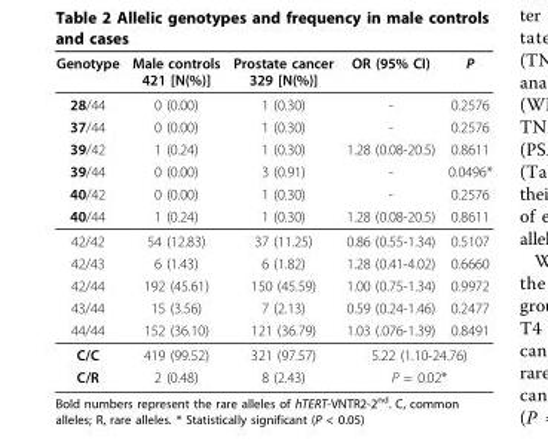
<table><thead><tr><td>Genotype</td><td>Male controls 421 [N(%)]</td><td>Prostate cancer 329 [N(%)]</td><td>OR (95% CI)</td><td>P</td></tr></thead><tbody><tr><td>28/44</td><td>0 (0.00)</td><td>1 (0.30)</td><td>-</td><td>0.2576</td></tr><tr><td>37/44</td><td>0 (0.00)</td><td>1 (0.30)</td><td>-</td><td>0.2576</td></tr><tr><td>39/42</td><td>1 (0.24)</td><td>1 (0.30)</td><td>1.28 (0.08-20.5)</td><td>0.8611</td></tr><tr><td>39/44</td><td>0 (0.00)</td><td>3 (0.91)</td><td>-</td><td>0.0496*</td></tr><tr><td>40/42</td><td>0 (0.00)</td><td>1 (0.30)</td><td>-</td><td>0.2576</td></tr><tr><td>40/44</td><td>1 (0.24)</td><td>1 (0.30)</td><td>1.28 (0.08-20.5)</td><td>0.8611</td></tr><tr><td>42/42</td><td>54 (12.83)</td><td>37 (11.25)</td><td>0.86 (0.55-1.34)</td><td>0.5107</td></tr><tr><td>42/43</td><td>6 (1.43)</td><td>6 (1.82)</td><td>1.28 (0.41-4.02)</td><td>0.6660</td></tr><tr><td>42/44</td><td>192 (45.61)</td><td>150 (45.59)</td><td>1.00 (0.75-1.34)</td><td>0.9972</td></tr><tr><td>43/44</td><td>15 (3.56)</td><td>7 (2.13)</td><td>0.59 (0.24-1.46)</td><td>0.2477</td></tr><tr><td>44/44</td><td>152 (36.10)</td><td>121 (36.79)</td><td>1.03 (.076-1.39)</td><td>0.8491</td></tr><tr><td>C/C</td><td>419 (99.52)</td><td>321 (97.57)</td><td colspan="2">5.22 (1.10-24.76)</td></tr><tr><td>C/R</td><td>2 (0.48)</td><td>8 (2.43)</td><td colspan="2">P = 0.02*</td></tr></tbody></table>